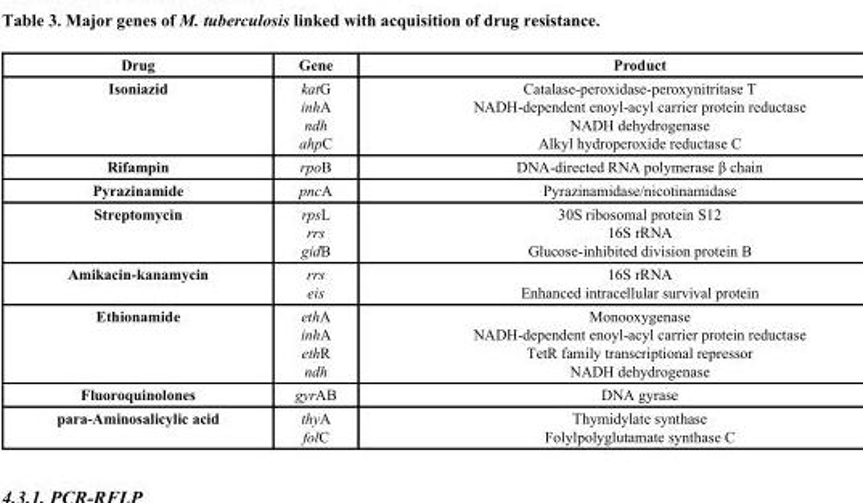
<table><thead><tr><td>Drug</td><td>Gene</td><td>Product</td></tr></thead><tbody><tr><td>Isoniazid</td><td>katG inhA ndh ahpC</td><td>Catalase-peroxidase-peroxynitritase T NADH-dependent enoyl-acyl carrier protein reductase NADH dehydrogenase Alkyl hydroperoxide reductase C</td></tr><tr><td>Rifampin</td><td>rpoB</td><td>DNA-directed RNA polymerase β chain</td></tr><tr><td>Pyrazinamide</td><td>pncA</td><td>Pyrazinamidase/nicotinamidase</td></tr><tr><td>Streptomycin</td><td>rpsL rrs gidB</td><td>30S ribosomal protein S12 16S rRNA Glucose-inhibited division protein B</td></tr><tr><td>Amikacin-kanamycin</td><td>rrs eis</td><td>16S rRNA Enhanced intracellular survival protein</td></tr><tr><td>Ethionamide</td><td>ethA inhA ethR ndh</td><td>Monooxygenase NADH-dependent enoyl-acyl carrier protein reductase TetR family transcriptional repressor NADH dehydrogenase</td></tr><tr><td>Fluoroquinolones</td><td>gyrAB</td><td>DNA gyrase</td></tr><tr><td>para-Aminosalicylic acid</td><td>thyA folC</td><td>Thymidylate synthase Folylpolyglutamate synthase C</td></tr></tbody></table>